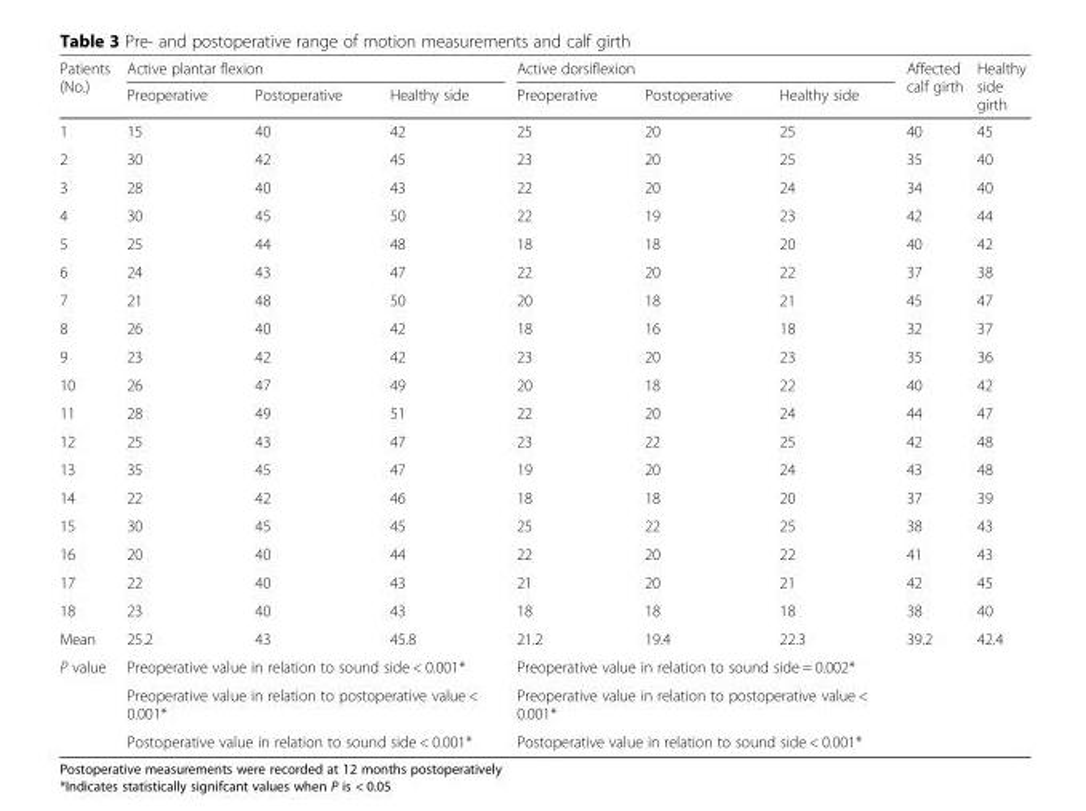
<table><thead><tr><td rowspan="2">Patients (No.)</td><td colspan="3">Active plantar flexion</td><td colspan="3">Active dorsiflexion</td><td rowspan="2">Affected calf girth</td><td rowspan="2">Healthy side girth</td></tr><tr><td>Preoperative</td><td>Postoperative</td><td>Healthy side</td><td>Preoperative</td><td>Postoperative</td><td>Healthy side</td></tr></thead><tbody><tr><td>1</td><td>15</td><td>40</td><td>42</td><td>25</td><td>20</td><td>25</td><td>40</td><td>45</td></tr><tr><td>2</td><td>30</td><td>42</td><td>45</td><td>23</td><td>20</td><td>25</td><td>35</td><td>40</td></tr><tr><td>3</td><td>28</td><td>40</td><td>43</td><td>22</td><td>20</td><td>24</td><td>34</td><td>40</td></tr><tr><td>4</td><td>30</td><td>45</td><td>50</td><td>22</td><td>19</td><td>23</td><td>42</td><td>44</td></tr><tr><td>5</td><td>25</td><td>44</td><td>48</td><td>18</td><td>18</td><td>20</td><td>40</td><td>42</td></tr><tr><td>6</td><td>24</td><td>43</td><td>47</td><td>22</td><td>20</td><td>22</td><td>37</td><td>38</td></tr><tr><td>7</td><td>21</td><td>48</td><td>50</td><td>20</td><td>18</td><td>21</td><td>45</td><td>47</td></tr><tr><td>8</td><td>26</td><td>40</td><td>42</td><td>18</td><td>16</td><td>18</td><td>32</td><td>37</td></tr><tr><td>9</td><td>23</td><td>42</td><td>42</td><td>23</td><td>20</td><td>23</td><td>35</td><td>36</td></tr><tr><td>10</td><td>26</td><td>47</td><td>49</td><td>20</td><td>18</td><td>22</td><td>40</td><td>42</td></tr><tr><td>11</td><td>28</td><td>49</td><td>51</td><td>22</td><td>20</td><td>24</td><td>44</td><td>47</td></tr><tr><td>12</td><td>25</td><td>43</td><td>47</td><td>23</td><td>22</td><td>25</td><td>42</td><td>48</td></tr><tr><td>13</td><td>35</td><td>45</td><td>47</td><td>19</td><td>20</td><td>24</td><td>43</td><td>48</td></tr><tr><td>14</td><td>22</td><td>42</td><td>46</td><td>18</td><td>18</td><td>20</td><td>37</td><td>39</td></tr><tr><td>15</td><td>30</td><td>45</td><td>45</td><td>25</td><td>22</td><td>25</td><td>38</td><td>43</td></tr><tr><td>16</td><td>20</td><td>40</td><td>44</td><td>22</td><td>20</td><td>22</td><td>41</td><td>43</td></tr><tr><td>17</td><td>22</td><td>40</td><td>43</td><td>21</td><td>20</td><td>21</td><td>42</td><td>45</td></tr><tr><td>18</td><td>23</td><td>40</td><td>43</td><td>18</td><td>18</td><td>18</td><td>38</td><td>40</td></tr><tr><td>Mean</td><td>25.2</td><td>43</td><td>45.8</td><td>21.2</td><td>19.4</td><td>22.3</td><td>39.2</td><td>42.4</td></tr><tr><td rowspan="3">P value</td><td colspan="3">Preoperative value in relation to sound side &lt; 0.001*</td><td colspan="3">Preoperative value in relation to sound side = 0.002*</td><td rowspan="3" colspan="2"></td></tr><tr><td colspan="3">Preoperative value in relation to postoperative value &lt; 0.001*</td><td colspan="3">Preoperative value in relation to postoperative value &lt; 0.001*</td></tr><tr><td colspan="3">Postoperative value in relation to sound side &lt; 0.001*</td><td colspan="3">Postoperative value in relation to sound side &lt; 0.001*</td></tr></tbody></table>